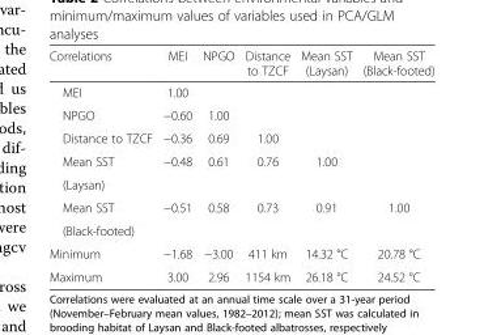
<table><thead><tr><td>Correlations</td><td>MEI</td><td>NPGO</td><td>Distance to TZCF</td><td>Mean SST (Laysan)</td><td>Mean SST (Black-footed)</td></tr></thead><tbody><tr><td>MEI</td><td>1.00</td><td></td><td></td><td></td><td></td></tr><tr><td>NPGO</td><td>−0.60</td><td>1.00</td><td></td><td></td><td></td></tr><tr><td>Distance to TZCF</td><td>−0.36</td><td>0.69</td><td>1.00</td><td></td><td></td></tr><tr><td>Mean SST</td><td rowspan="2">−0.48</td><td rowspan="2">0.61</td><td rowspan="2">0.76</td><td rowspan="2">1.00</td><td rowspan="2"></td></tr><tr><td>(Laysan)</td></tr><tr><td>Mean SST</td><td rowspan="2">−0.51</td><td rowspan="2">0.58</td><td rowspan="2">0.73</td><td rowspan="2">0.91</td><td rowspan="2">1.00</td></tr><tr><td>(Black-footed)</td></tr><tr><td>Minimum</td><td>−1.68</td><td>−3.00</td><td>411 km</td><td>14.32 °C</td><td>20.78 °C</td></tr><tr><td>Maximum</td><td>3.00</td><td>2.96</td><td>1154 km</td><td>26.18 °C</td><td>24.52 °C</td></tr></tbody></table>